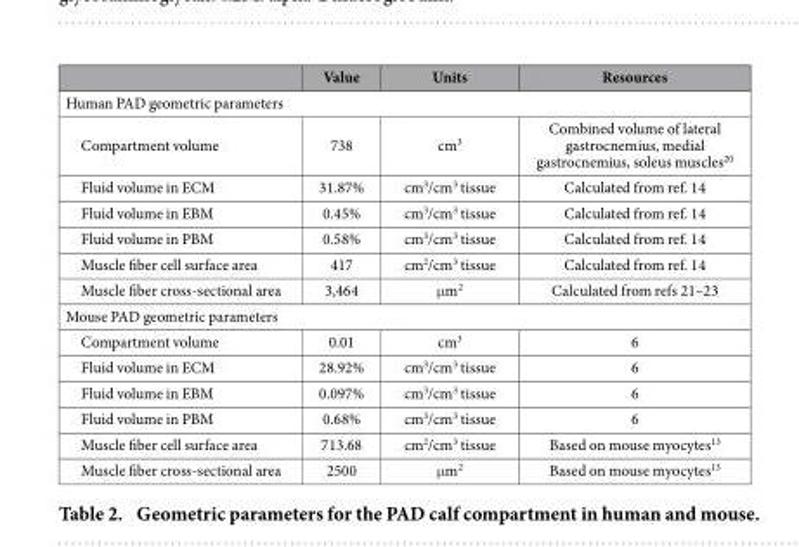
<table><thead><tr><td></td><td>Value</td><td>Units</td><td>Resources</td></tr></thead><tbody><tr><td colspan="4">Human PAD geometric parameters</td></tr><tr><td>Compartment volume</td><td>738</td><td>cm<sup>3</sup></td><td>Combined volume of lateral gastrocnemius, medial gastrocnemius, soleus muscles<sup>20</sup></td></tr><tr><td>Fluid volume in ECM</td><td>31.87%</td><td>cm<sup>3</sup>/cm<sup>3</sup> tissue</td><td>Calculated from ref. 14</td></tr><tr><td>Fluid volume in EBM</td><td>0.45%</td><td>cm<sup>3</sup>/cm<sup>3</sup> tissue</td><td>Calculated from ref. 14</td></tr><tr><td>Fluid volume in PBM</td><td>0.58%</td><td>cm<sup>3</sup>/cm<sup>3</sup> tissue</td><td>Calculated from ref. 14</td></tr><tr><td>Muscle fiber cell surface area</td><td>417</td><td>cm<sup>2</sup>/cm<sup>3</sup> tissue</td><td>Calculated from ref. 14</td></tr><tr><td>Muscle fiber cross-sectional area</td><td>3,464</td><td>μ m<sup>2</sup></td><td>Calculated from refs 21–23</td></tr><tr><td colspan="4">Mouse PAD geometric parameters</td></tr><tr><td>Compartment volume</td><td>0.01</td><td>cm<sup>3</sup></td><td>6</td></tr><tr><td>Fluid volume in ECM</td><td>28.92%</td><td>cm<sup>3</sup>/cm<sup>3</sup> tissue</td><td>6</td></tr><tr><td>Fluid volume in EBM</td><td>0.097%</td><td>cm<sup>3</sup>/cm<sup>3</sup> tissue</td><td>6</td></tr><tr><td>Fluid volume in PBM</td><td>0.68%</td><td>cm<sup>3</sup>/cm<sup>3</sup> tissue</td><td>6</td></tr><tr><td>Muscle fiber cell surface area</td><td>713.68</td><td>cm<sup>2</sup>/cm<sup>3</sup> tissue</td><td>Based on mouse myocytes<sup>13</sup></td></tr><tr><td>Muscle fiber cross-sectional area</td><td>2500</td><td>μ m<sup>2</sup></td><td>Based on mouse myocytes<sup>13</sup></td></tr></tbody></table>